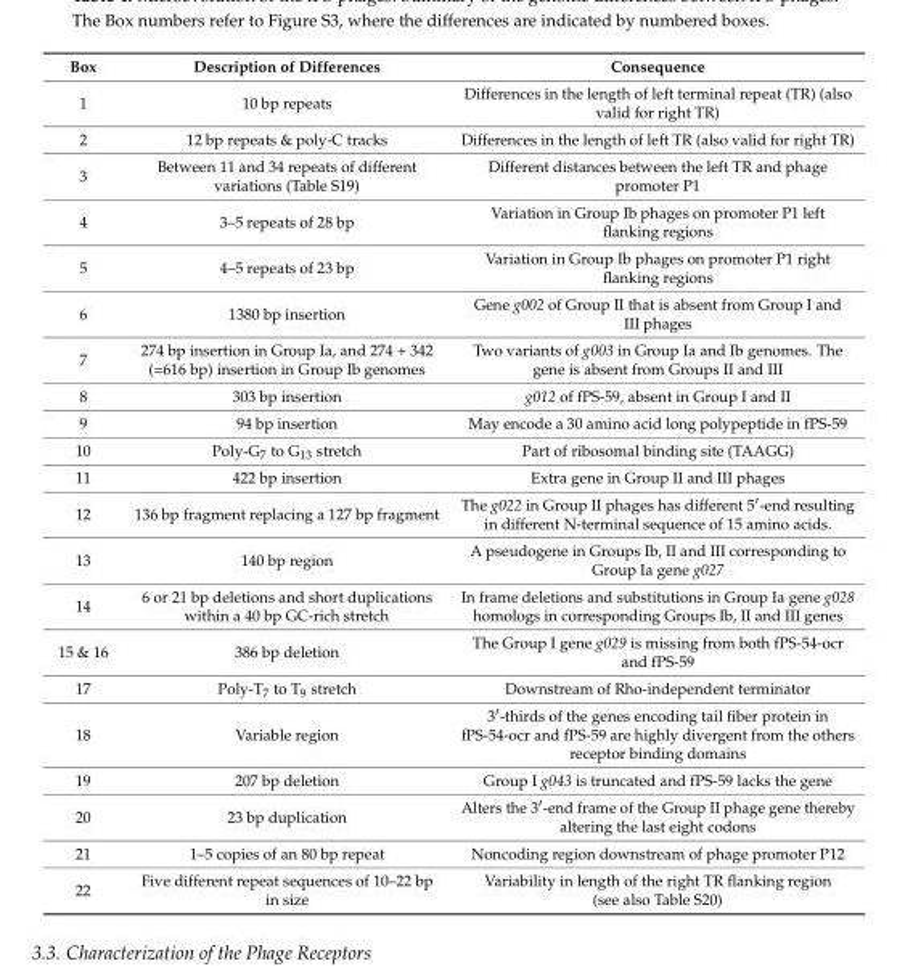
<table><thead><tr><td>Box</td><td>Description of Differences</td><td>Consequence</td></tr></thead><tbody><tr><td>1</td><td>10 bp repeats</td><td>Differences in the length of left terminal repeat (TR) (also valid for right TR)</td></tr><tr><td>2</td><td>12 bp repeats &amp; poly-C tracks</td><td>Differences in the length of left TR (also valid for right TR)</td></tr><tr><td>3</td><td>Between 11 and 34 repeats of different variations (Table S19)</td><td>Different distances between the left TR and phage promoter P1</td></tr><tr><td>4</td><td>3–5 repeats of 28 bp</td><td>Variation in Group Ib phages on promoter P1 left flanking regions</td></tr><tr><td>5</td><td>4–5 repeats of 23 bp</td><td>Variation in Group Ib phages on promoter P1 right flanking regions</td></tr><tr><td>6</td><td>1380 bp insertion</td><td>Gene g002 of Group II that is absent from Group I and III phages</td></tr><tr><td>7</td><td>274 bp insertion in Group Ia, and 274 + 342 (=616 bp) insertion in Group Ib genomes</td><td>Two variants of g003 in Group Ia and Ib genomes. The gene is absent from Groups II and III</td></tr><tr><td>8</td><td>303 bp insertion</td><td>g012 of fPS-59, absent in Group I and II</td></tr><tr><td>9</td><td>94 bp insertion</td><td>May encode a 30 amino acid long polypeptide in fPS-59</td></tr><tr><td>10</td><td>Poly-G<sub>7</sub> to G<sub>13</sub> stretch</td><td>Part of ribosomal binding site (TAAGG)</td></tr><tr><td>11</td><td>422 bp insertion</td><td>Extra gene in Group II and III phages</td></tr><tr><td>12</td><td>136 bp fragment replacing a 127 bp fragment</td><td>The g022 in Group II phages has different 5′-end resulting in different N-terminal sequence of 15 amino acids.</td></tr><tr><td>13</td><td>140 bp region</td><td>A pseudogene in Groups Ib, II and III corresponding to Group Ia gene g027</td></tr><tr><td>14</td><td>6 or 21 bp deletions and short duplications within a 40 bp GC-rich stretch</td><td>In frame deletions and substitutions in Group Ia gene g028 homologs in corresponding Groups Ib, II and III genes</td></tr><tr><td>15 &amp; 16</td><td>386 bp deletion</td><td>The Group I gene g029 is missing from both fPS-54-ocr and fPS-59</td></tr><tr><td>17</td><td>Poly-T<sub>7</sub> to T<sub>9</sub> stretch</td><td>Downstream of Rho-independent terminator</td></tr><tr><td>18</td><td>Variable region</td><td>3′-thirds of the genes encoding tail fiber protein in fPS-54-ocr and fPS-59 are highly divergent from the others receptor binding domains</td></tr><tr><td>19</td><td>207 bp deletion</td><td>Group I g043 is truncated and fPS-59 lacks the gene</td></tr><tr><td>20</td><td>23 bp duplication</td><td>Alters the 3′-end frame of the Group II phage gene thereby altering the last eight codons</td></tr><tr><td>21</td><td>1–5 copies of an 80 bp repeat</td><td>Noncoding region downstream of phage promoter P12</td></tr><tr><td>22</td><td>Five different repeat sequences of 10–22 bp in size</td><td>Variability in length of the right TR flanking region (see also Table S20)</td></tr></tbody></table>